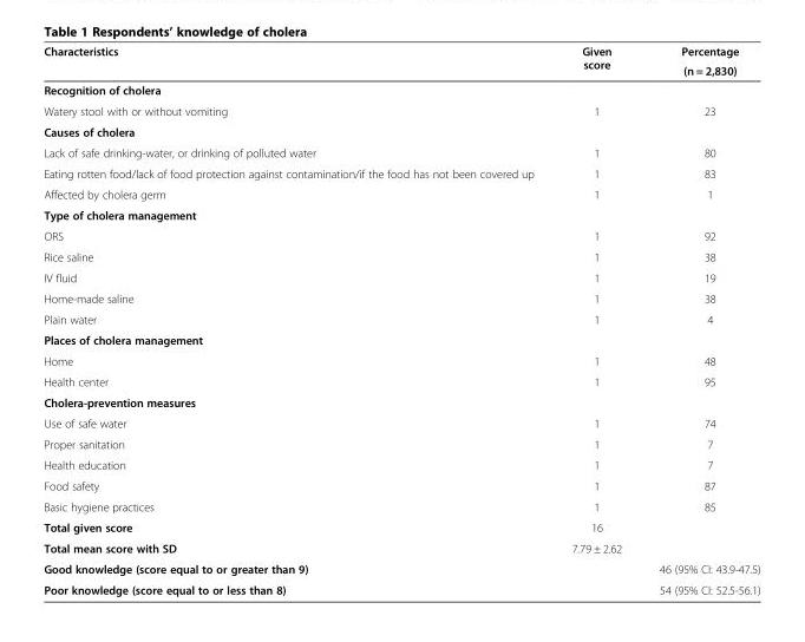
<table><thead><tr><td rowspan="2">Characteristics</td><td rowspan="2">Given score</td><td rowspan="2">Percentage (n = 2,830)</td></tr><tr></tr></thead><tbody><tr><td colspan="3">Recognition of cholera</td></tr><tr><td>Watery stool with or without vomiting</td><td>1</td><td>23</td></tr><tr><td colspan="3">Causes of cholera</td></tr><tr><td>Lack of safe drinking-water, or drinking of polluted water</td><td>1</td><td>80</td></tr><tr><td>Eating rotten food/lack of food protection against contamination/if the food has not been covered up</td><td>1</td><td>83</td></tr><tr><td>Affected by cholera germ</td><td>1</td><td>1</td></tr><tr><td colspan="3">Type of cholera management</td></tr><tr><td>ORS</td><td>1</td><td>92</td></tr><tr><td>Rice saline</td><td>1</td><td>38</td></tr><tr><td>IV fluid</td><td>1</td><td>19</td></tr><tr><td>Home-made saline</td><td>1</td><td>38</td></tr><tr><td>Plain water</td><td>1</td><td>4</td></tr><tr><td colspan="3">Places of cholera management</td></tr><tr><td>Home</td><td>1</td><td>48</td></tr><tr><td>Health center</td><td>1</td><td>95</td></tr><tr><td colspan="3">Cholera-prevention measures</td></tr><tr><td>Use of safe water</td><td>1</td><td>74</td></tr><tr><td>Proper sanitation</td><td>1</td><td>7</td></tr><tr><td>Health education</td><td>1</td><td>7</td></tr><tr><td>Food safety</td><td>1</td><td>87</td></tr><tr><td>Basic hygiene practices</td><td>1</td><td>85</td></tr><tr><td>Total given score</td><td>16</td><td></td></tr><tr><td>Total mean score with SD</td><td>7.79 ± 2.62</td><td></td></tr><tr><td>Good knowledge (score equal to or greater than 9)</td><td></td><td>46 (95% CI: 43.9-47.5)</td></tr><tr><td>Poor knowledge (score equal to or less than 8)</td><td></td><td>54 (95% CI: 52.5-56.1)</td></tr></tbody></table>